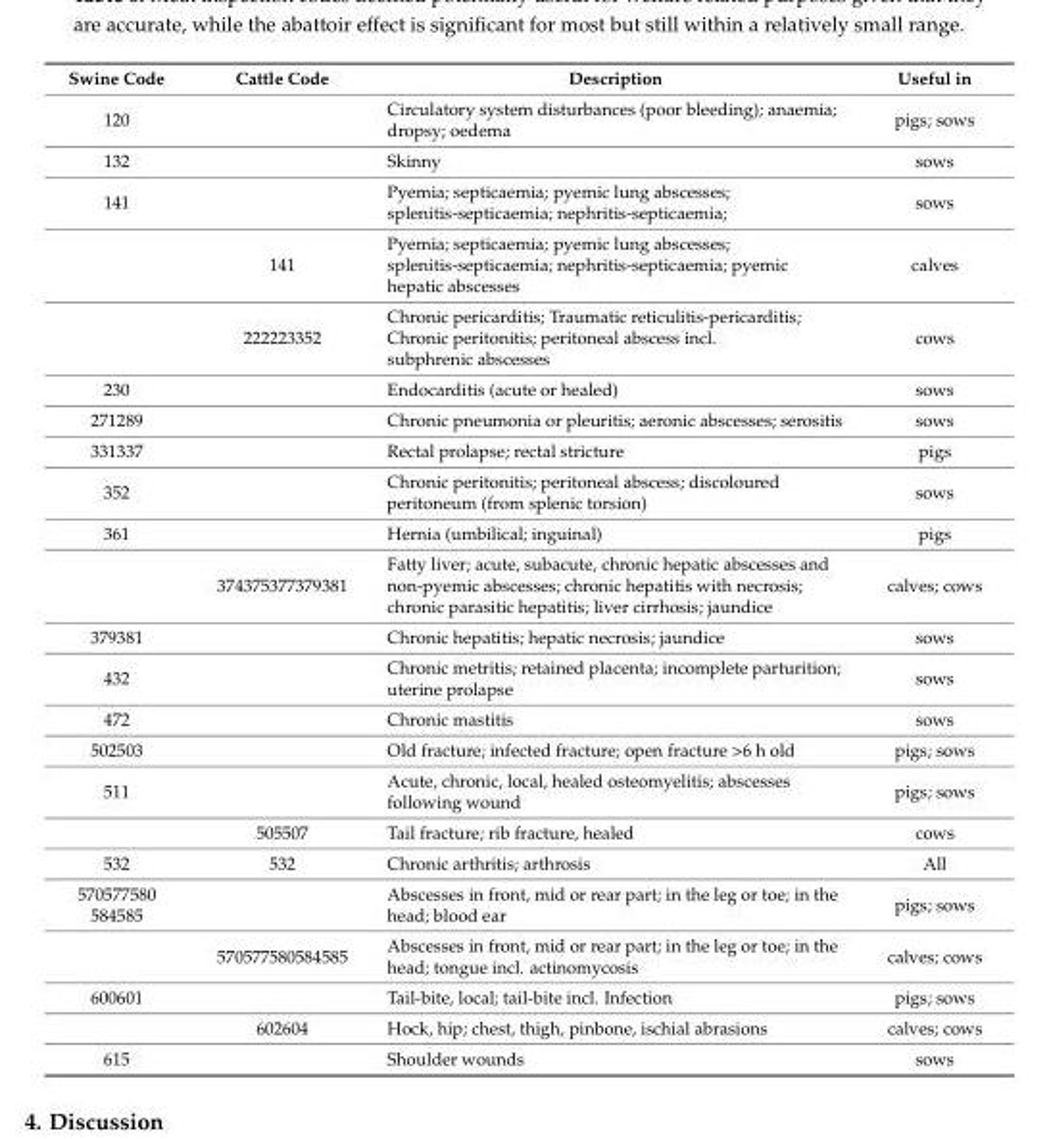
<table><thead><tr><td>Swine Code</td><td>Cattle Code</td><td>Description</td><td>Useful in</td></tr></thead><tbody><tr><td>120</td><td></td><td>Circulatory system disturbances (poor bleeding); anaemia; dropsy; oedema</td><td>pigs; sows</td></tr><tr><td>132</td><td></td><td>Skinny</td><td>sows</td></tr><tr><td rowspan="3">141</td><td></td><td>Pyemia; septicaemia; pyemic lung abscesses; splenitis-septicaemia; nephritis-septicaemia;</td><td>sows</td></tr><tr><td>141</td><td>Pyemia; septicaemia; pyemic lung abscesses; splenitis-septicaemia; nephritis-septicaemia; pyemic hepatic abscesses</td><td>calves</td></tr><tr><td>222223352</td><td>Chronic pericarditis; Traumatic reticulitis-pericarditis; Chronic peritonitis; peritoneal abscess incl. subphrenic abscesses</td><td>cows</td></tr><tr><td>230</td><td></td><td>Endocarditis (acute or healed)</td><td>sows</td></tr><tr><td>271289</td><td></td><td>Chronic pneumonia or pleuritis; aeronic abscesses; serositis</td><td>sows</td></tr><tr><td>331337</td><td></td><td>Rectal prolapse; rectal stricture</td><td>pigs</td></tr><tr><td>352</td><td></td><td>Chronic peritonitis; peritoneal abscess; discoloured peritoneum (from splenic torsion)</td><td>sows</td></tr><tr><td rowspan="2">361</td><td></td><td>Hernia (umbilical; inguinal)</td><td>pigs</td></tr><tr><td>374375377379381</td><td>Fatty liver; acute, subacute, chronic hepatic abscesses and non-pyemic abscesses; chronic hepatitis with necrosis; chronic parasitic hepatitis; liver cirrhosis; jaundice</td><td>calves; cows</td></tr><tr><td>379381</td><td></td><td>Chronic hepatitis; hepatic necrosis; jaundice</td><td>sows</td></tr><tr><td>432</td><td></td><td>Chronic metritis; retained placenta; incomplete parturition; uterine prolapse</td><td>sows</td></tr><tr><td>472</td><td></td><td>Chronic mastitis</td><td>sows</td></tr><tr><td>502503</td><td></td><td>Old fracture; infected fracture; open fracture &gt;6 h old</td><td>pigs; sows</td></tr><tr><td rowspan="2">511</td><td></td><td>Acute, chronic, local, healed osteomyelitis; abscesses following wound</td><td>pigs; sows</td></tr><tr><td>505507</td><td>Tail fracture; rib fracture, healed</td><td>cows</td></tr><tr><td>532</td><td>532</td><td>Chronic arthritis; arthrosis</td><td>All</td></tr><tr><td rowspan="2">570577580 584585</td><td></td><td>Abscesses in front, mid or rear part; in the leg or toe; in the head; blood ear</td><td>pigs; sows</td></tr><tr><td>570577580584585</td><td>Abscesses in front, mid or rear part; in the leg or toe; in the head; tongue incl. actinomycosis</td><td>calves; cows</td></tr><tr><td rowspan="2">600601</td><td></td><td>Tail-bite, local; tail-bite incl. Infection</td><td>pigs; sows</td></tr><tr><td>602604</td><td>Hock, hip; chest, thigh, pinbone, ischial abrasions</td><td>calves; cows</td></tr><tr><td>615</td><td></td><td>Shoulder wounds</td><td>sows</td></tr></tbody></table>